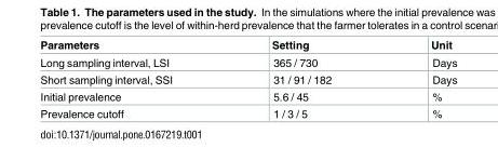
<table><thead><tr><td>Parameters</td><td>Setting</td><td>Unit</td></tr></thead><tbody><tr><td>Long sampling interval, LSI</td><td>365 / 730</td><td>Days</td></tr><tr><td>Short sampling interval, SSI</td><td>31 / 91 / 182</td><td>Days</td></tr><tr><td>Initial prevalence</td><td>5.6 / 45</td><td>%</td></tr><tr><td>Prevalence cutoff</td><td>1 / 3 / 5</td><td>%</td></tr></tbody></table>